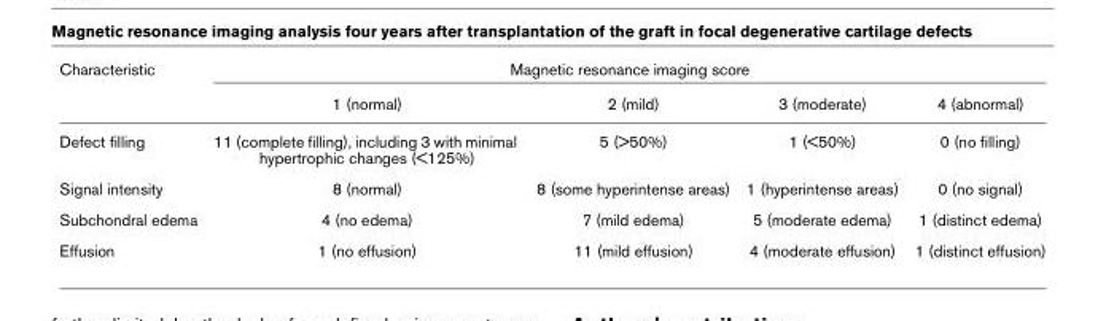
<table><thead><tr><td rowspan="2">Characteristic</td><td colspan="4">Magnetic resonance imaging score</td></tr><tr><td>1 (normal)</td><td>2 (mild)</td><td>3 (moderate)</td><td>4 (abnormal)</td></tr></thead><tbody><tr><td>Defect filling</td><td>11 (complete filling), including 3 with minimal hypertrophic changes (&lt;125%)</td><td>5 (&gt;50%)</td><td>1 (&lt;50%)</td><td>0 (no filling)</td></tr><tr><td>Signal intensity</td><td>8 (normal)</td><td>8 (some hyperintense areas)</td><td>1 (hyperintense areas)</td><td>0 (no signal)</td></tr><tr><td>Subchondral edema</td><td>4 (no edema)</td><td>7 (mild edema)</td><td>5 (moderate edema)</td><td>1 (distinct edema)</td></tr><tr><td>Effusion</td><td>1 (no effusion)</td><td>11 (mild effusion)</td><td>4 (moderate effusion)</td><td>1 (distinct effusion)</td></tr></tbody></table>